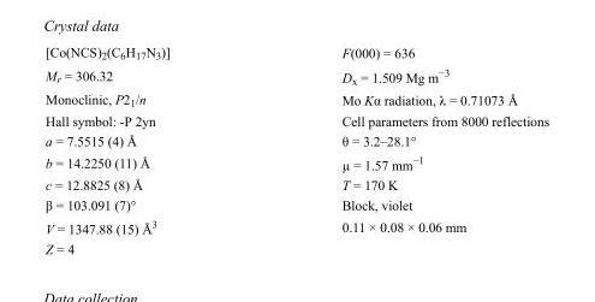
<table><tbody><tr><td>[Co(NCS)<sub>2</sub>(C<sub>6</sub>H<sub>17</sub>N<sub>3</sub>)]</td><td>F(000) = 636</td></tr><tr><td>M<sub>r</sub> = 306.32</td><td>D<sub>x</sub> = 1.509 Mg m<sup>−3</sup></td></tr><tr><td>Monoclinic, P2<sub>1</sub>/n</td><td>Mo Kα radiation, λ = 0.71073 Å</td></tr><tr><td>Hall symbol: -P 2yn</td><td>Cell parameters from 8000 reflections</td></tr><tr><td>a = 7.5515 (4) Å</td><td>θ = 3.2–28.1°</td></tr><tr><td>b = 14.2250 (11) Å</td><td>µ = 1.57 mm<sup>−1</sup></td></tr><tr><td>c = 12.8825 (8) Å</td><td>T = 170 K</td></tr><tr><td>β = 103.091 (7)°</td><td>Block, violet</td></tr><tr><td>V = 1347.88 (15) Å<sup>3</sup></td><td>0.11 × 0.08 × 0.06 mm</td></tr><tr><td>Z = 4</td><td></td></tr></tbody></table>